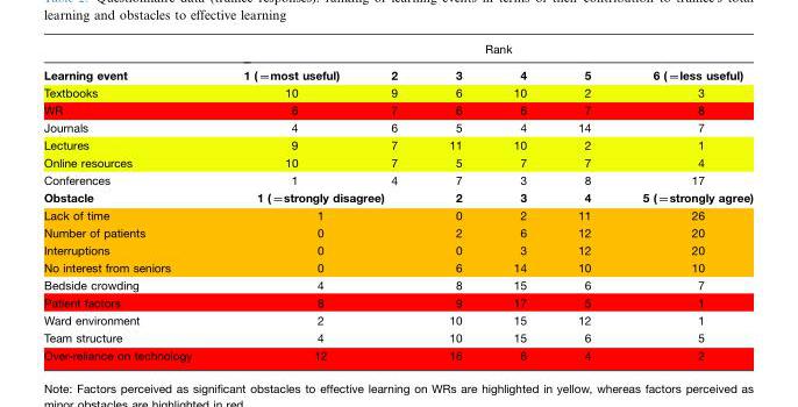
<table><thead><tr><td rowspan="2">Learning event</td><td colspan="6">Rank</td></tr><tr><td>1 (=most useful)</td><td>2</td><td>3</td><td>4</td><td>5</td><td>6 (=less useful)</td></tr></thead><tbody><tr><td>Textbooks</td><td>10</td><td>9</td><td>6</td><td>10</td><td>2</td><td>3</td></tr><tr><td>WR</td><td>6</td><td>7</td><td>6</td><td>6</td><td>7</td><td>8</td></tr><tr><td>Journals</td><td>4</td><td>6</td><td>5</td><td>4</td><td>14</td><td>7</td></tr><tr><td>Lectures</td><td>9</td><td>7</td><td>11</td><td>10</td><td>2</td><td>1</td></tr><tr><td>Online resources</td><td>10</td><td>7</td><td>5</td><td>7</td><td>7</td><td>4</td></tr><tr><td>Conferences</td><td>1</td><td>4</td><td>7</td><td>3</td><td>8</td><td>17</td></tr><tr><td>Obstacle</td><td colspan="2">1 (=strongly disagree)</td><td>2</td><td>3</td><td>4</td><td>5 (=strongly agree)</td></tr><tr><td>Lack of time</td><td colspan="2">1</td><td>0</td><td>2</td><td>11</td><td>26</td></tr><tr><td>Number of patients</td><td colspan="2">0</td><td>2</td><td>6</td><td>12</td><td>20</td></tr><tr><td>Interruptions</td><td colspan="2">0</td><td>0</td><td>3</td><td>12</td><td>20</td></tr><tr><td>No interest from seniors</td><td colspan="2">0</td><td>6</td><td>14</td><td>10</td><td>10</td></tr><tr><td>Bedside crowding</td><td colspan="2">4</td><td>8</td><td>15</td><td>6</td><td>7</td></tr><tr><td>Patient factors</td><td colspan="2">8</td><td>9</td><td>17</td><td>5</td><td>1</td></tr><tr><td>Ward environment</td><td colspan="2">2</td><td>10</td><td>15</td><td>12</td><td>1</td></tr><tr><td>Team structure</td><td colspan="2">4</td><td>10</td><td>15</td><td>6</td><td>5</td></tr><tr><td>Over-reliance on technology</td><td colspan="2">12</td><td>16</td><td>6</td><td>4</td><td>2</td></tr></tbody></table>